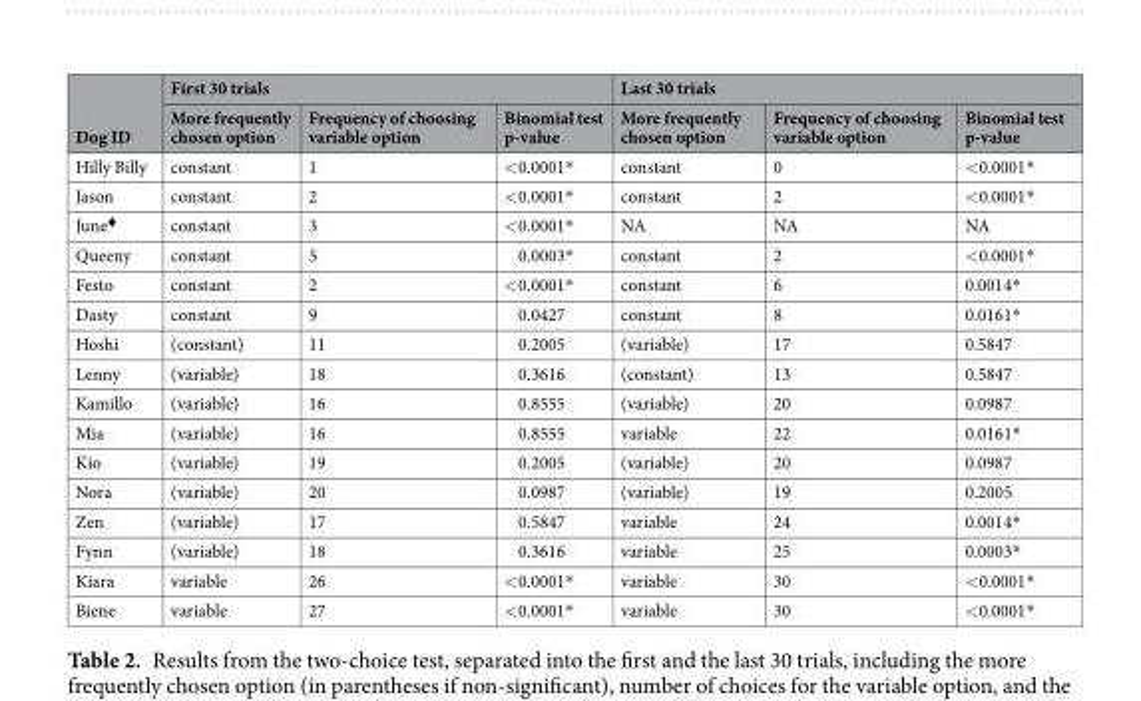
<table><thead><tr><td rowspan="2">Dog ID</td><td colspan="3">First 30 trials</td><td colspan="3">Last 30 trials</td></tr><tr><td>More frequently chosen option</td><td>Frequency of choosing variable option</td><td>Binomial test p-value</td><td>More frequently chosen option</td><td>Frequency of choosing variable option</td><td>Binomial test p-value</td></tr></thead><tbody><tr><td>Hilly Billy</td><td>constant</td><td>1</td><td>&lt;0.0001*</td><td>constant</td><td>0</td><td>&lt;0.0001*</td></tr><tr><td>Jason</td><td>constant</td><td>2</td><td>&lt;0.0001*</td><td>constant</td><td>2</td><td>&lt;0.0001*</td></tr><tr><td>June<sup>♦</sup></td><td>constant</td><td>3</td><td>&lt;0.0001*</td><td>NA</td><td>NA</td><td>NA</td></tr><tr><td>Queeny</td><td>constant</td><td>5</td><td>0.0003*</td><td>constant</td><td>2</td><td>&lt;0.0001*</td></tr><tr><td>Festo</td><td>constant</td><td>2</td><td>&lt;0.0001*</td><td>constant</td><td>6</td><td>0.0014*</td></tr><tr><td>Dasty</td><td>constant</td><td>9</td><td>0.0427</td><td>constant</td><td>8</td><td>0.0161*</td></tr><tr><td>Hoshi</td><td>(constant)</td><td>11</td><td>0.2005</td><td>(variable)</td><td>17</td><td>0.5847</td></tr><tr><td>Lenny</td><td>(variable)</td><td>18</td><td>0.3616</td><td>(constant)</td><td>13</td><td>0.5847</td></tr><tr><td>Kamillo</td><td>(variable)</td><td>16</td><td>0.8555</td><td>(variable)</td><td>20</td><td>0.0987</td></tr><tr><td>Mia</td><td>(variable)</td><td>16</td><td>0.8555</td><td>variable</td><td>22</td><td>0.0161*</td></tr><tr><td>Kio</td><td>(variable)</td><td>19</td><td>0.2005</td><td>(variable)</td><td>20</td><td>0.0987</td></tr><tr><td>Nora</td><td>(variable)</td><td>20</td><td>0.0987</td><td>(variable)</td><td>19</td><td>0.2005</td></tr><tr><td>Zen</td><td>(variable)</td><td>17</td><td>0.5847</td><td>variable</td><td>24</td><td>0.0014*</td></tr><tr><td>Fynn</td><td>(variable)</td><td>18</td><td>0.3616</td><td>variable</td><td>25</td><td>0.0003*</td></tr><tr><td>Kiara</td><td>variable</td><td>26</td><td>&lt;0.0001*</td><td>variable</td><td>30</td><td>&lt;0.0001*</td></tr><tr><td>Biene</td><td>variable</td><td>27</td><td>&lt;0.0001*</td><td>variable</td><td>30</td><td>&lt;0.0001*</td></tr></tbody></table>